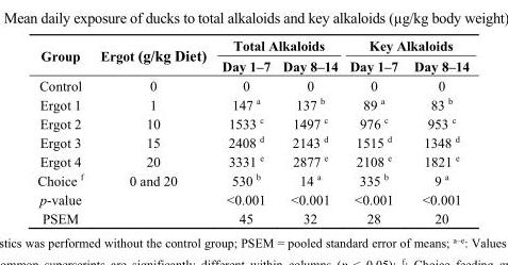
<table><thead><tr><td rowspan="2">Group</td><td rowspan="2">Ergot (g/kg Diet)</td><td colspan="2">Total Alkaloids</td><td colspan="2">Key Alkaloids</td></tr><tr><td>Day 1–7</td><td>Day 8–14</td><td>Day 1–7</td><td>Day 8–14</td></tr></thead><tbody><tr><td>Control</td><td>0</td><td>0</td><td>0</td><td>0</td><td>0</td></tr><tr><td>Ergot 1</td><td>1</td><td>147 <sup>a</sup></td><td>137 <sup>b</sup></td><td>89 <sup>a</sup></td><td>83 <sup>b</sup></td></tr><tr><td>Ergot 2</td><td>10</td><td>1533 <sup>c</sup></td><td>1497 <sup>c</sup></td><td>976 <sup>c</sup></td><td>953 <sup>c</sup></td></tr><tr><td>Ergot 3</td><td>15</td><td>2408 <sup>d</sup></td><td>2143 <sup>d</sup></td><td>1515 <sup>d</sup></td><td>1348 <sup>d</sup></td></tr><tr><td>Ergot 4</td><td>20</td><td>3331 <sup>e</sup></td><td>2877 <sup>e</sup></td><td>2108 <sup>e</sup></td><td>1821 <sup>e</sup></td></tr><tr><td>Choice <sup>f</sup></td><td>0 and 20</td><td>530 <sup>b</sup></td><td>14 <sup>a</sup></td><td>335 <sup>b</sup></td><td>9 <sup>a</sup></td></tr><tr><td>p-value</td><td></td><td>&lt;0.001</td><td>&lt;0.001</td><td>&lt;0.001</td><td>&lt;0.001</td></tr><tr><td>PSEM</td><td></td><td>45</td><td>32</td><td>28</td><td>20</td></tr></tbody></table>